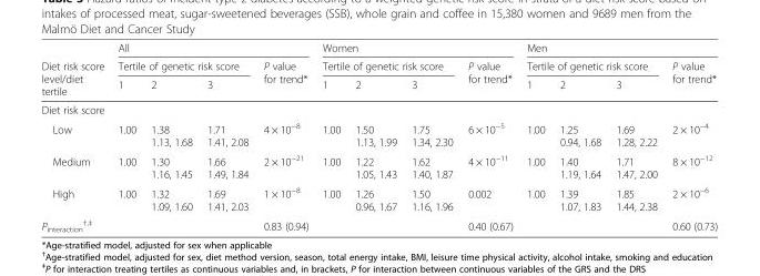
<table><thead><tr><td rowspan="3">Diet risk score level/diet tertile</td><td colspan="4">All</td><td colspan="4">Women</td><td colspan="4">Men</td></tr><tr><td colspan="3">Tertile of genetic risk score</td><td rowspan="2">P value for trend*</td><td colspan="3">Tertile of genetic risk score</td><td rowspan="2">P value for trend*</td><td colspan="3">Tertile of genetic risk score</td><td rowspan="2">P value for trend*</td></tr><tr><td>1</td><td>2</td><td>3</td><td>1</td><td>2</td><td>3</td><td>1</td><td>2</td><td>3</td></tr></thead><tbody><tr><td colspan="13">Diet risk score</td></tr><tr><td>Low</td><td>1.00</td><td>1.38 1.13, 1.68</td><td>1.71 1.41, 2.08</td><td>4 × 10<sup>−8</sup></td><td>1.00</td><td>1.50 1.13, 1.99</td><td>1.75 1.34, 2.30</td><td>6 × 10<sup>−5</sup></td><td>1.00</td><td>1.25 0.94, 1.68</td><td>1.69 1.28, 2.22</td><td>2 × 10<sup>−4</sup></td></tr><tr><td>Medium</td><td>1.00</td><td>1.30 1.16, 1.45</td><td>1.66 1.49, 1.84</td><td>2 × 10<sup>−21</sup></td><td>1.00</td><td>1.22 1.05, 1.43</td><td>1.62 1.40, 1.87</td><td>4 × 10<sup>−11</sup></td><td>1.00</td><td>1.40 1.19, 1.64</td><td>1.71 1.47, 2.00</td><td>8 × 10<sup>−12</sup></td></tr><tr><td>High</td><td>1.00</td><td>1.32 1.09, 1.60</td><td>1.69 1.41, 2.03</td><td>1 × 10<sup>−8</sup></td><td>1.00</td><td>1.26 0.96, 1.67</td><td>1.50 1.16, 1.96</td><td>0.002</td><td>1.00</td><td>1.39 1.07, 1.83</td><td>1.85 1.44, 2.38</td><td>2 × 10<sup>−6</sup></td></tr><tr><td>P<sub>interaction</sub> <sup>†,‡</sup></td><td></td><td></td><td></td><td>0.83 (0.94)</td><td></td><td></td><td></td><td>0.40 (0.67)</td><td></td><td></td><td></td><td>0.60 (0.73)</td></tr></tbody></table>